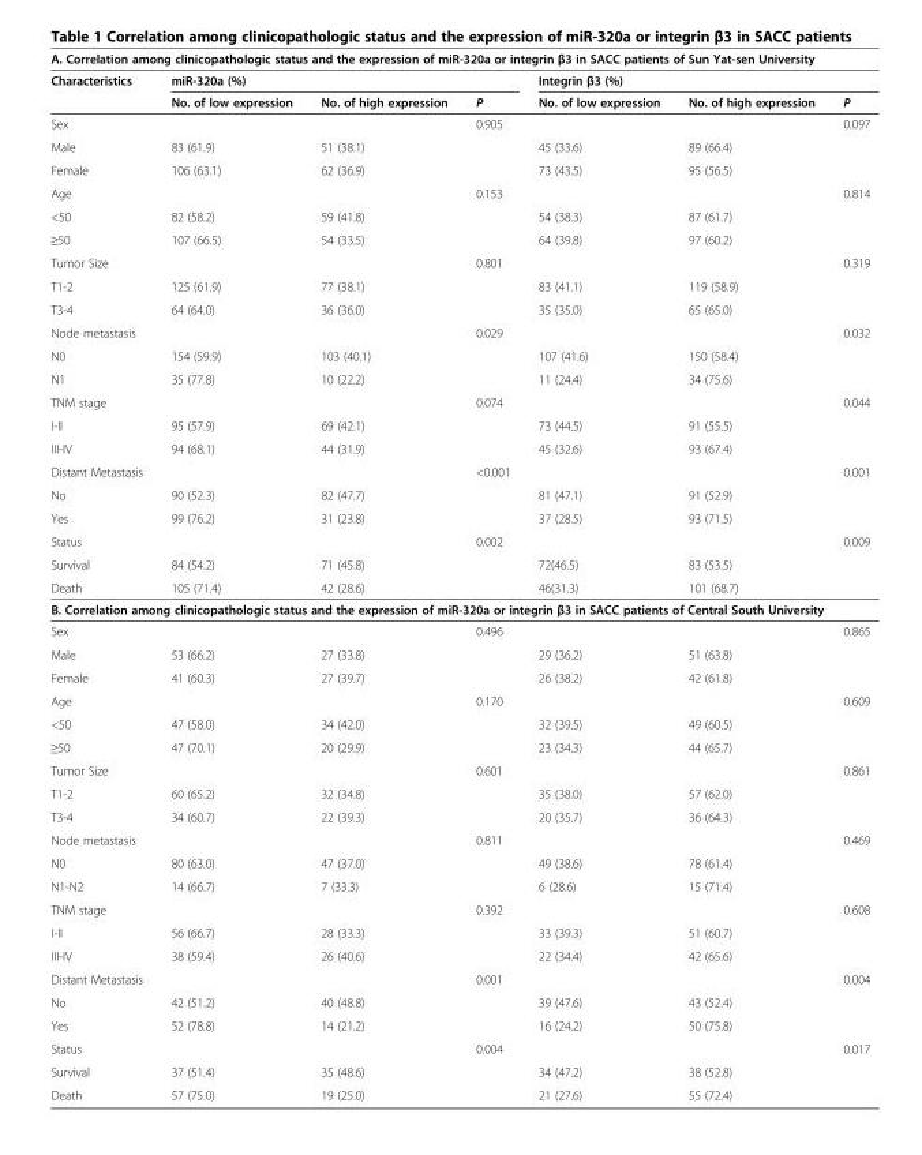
<table><thead><tr><td colspan="7">A. Correlation among clinicopathologic status and the expression of miR-320a or integrin β3 in SACC patients of Sun Yat-sen University</td></tr><tr><td rowspan="2">Characteristics</td><td colspan="3">miR-320a (%)</td><td colspan="3">Integrin β3 (%)</td></tr><tr><td>No. of low expression</td><td>No. of high expression</td><td>P</td><td>No. of low expression</td><td>No. of high expression</td><td>P</td></tr></thead><tbody><tr><td>Sex</td><td></td><td></td><td>0.905</td><td></td><td></td><td>0.097</td></tr><tr><td>Male</td><td>83 (61.9)</td><td>51 (38.1)</td><td></td><td>45 (33.6)</td><td>89 (66.4)</td><td></td></tr><tr><td>Female</td><td>106 (63.1)</td><td>62 (36.9)</td><td></td><td>73 (43.5)</td><td>95 (56.5)</td><td></td></tr><tr><td>Age</td><td></td><td></td><td>0.153</td><td></td><td></td><td>0.814</td></tr><tr><td>&lt;50</td><td>82 (58.2)</td><td>59 (41.8)</td><td></td><td>54 (38.3)</td><td>87 (61.7)</td><td></td></tr><tr><td>≥50</td><td>107 (66.5)</td><td>54 (33.5)</td><td></td><td>64 (39.8)</td><td>97 (60.2)</td><td></td></tr><tr><td>Tumor Size</td><td></td><td></td><td>0.801</td><td></td><td></td><td>0.319</td></tr><tr><td>T1-2</td><td>125 (61.9)</td><td>77 (38.1)</td><td></td><td>83 (41.1)</td><td>119 (58.9)</td><td></td></tr><tr><td>T3-4</td><td>64 (64.0)</td><td>36 (36.0)</td><td></td><td>35 (35.0)</td><td>65 (65.0)</td><td></td></tr><tr><td>Node metastasis</td><td></td><td></td><td>0.029</td><td></td><td></td><td>0.032</td></tr><tr><td>N0</td><td>154 (59.9)</td><td>103 (40.1)</td><td></td><td>107 (41.6)</td><td>150 (58.4)</td><td></td></tr><tr><td>N1</td><td>35 (77.8)</td><td>10 (22.2)</td><td></td><td>11 (24.4)</td><td>34 (75.6)</td><td></td></tr><tr><td>TNM stage</td><td></td><td></td><td>0.074</td><td></td><td></td><td>0.044</td></tr><tr><td>I-II</td><td>95 (57.9)</td><td>69 (42.1)</td><td></td><td>73 (44.5)</td><td>91 (55.5)</td><td></td></tr><tr><td>III-IV</td><td>94 (68.1)</td><td>44 (31.9)</td><td></td><td>45 (32.6)</td><td>93 (67.4)</td><td></td></tr><tr><td>Distant Metastasis</td><td></td><td></td><td>&lt;0.001</td><td></td><td></td><td>0.001</td></tr><tr><td>No</td><td>90 (52.3)</td><td>82 (47.7)</td><td></td><td>81 (47.1)</td><td>91 (52.9)</td><td></td></tr><tr><td>Yes</td><td>99 (76.2)</td><td>31 (23.8)</td><td></td><td>37 (28.5)</td><td>93 (71.5)</td><td></td></tr><tr><td>Status</td><td></td><td></td><td>0.002</td><td></td><td></td><td>0.009</td></tr><tr><td>Survival</td><td>84 (54.2)</td><td>71 (45.8)</td><td></td><td>72(46.5)</td><td>83 (53.5)</td><td></td></tr><tr><td>Death</td><td>105 (71.4)</td><td>42 (28.6)</td><td></td><td>46(31.3)</td><td>101 (68.7)</td><td></td></tr><tr><td colspan="7">B. Correlation among clinicopathologic status and the expression of miR-320a or integrin β3 in SACC patients of Central South University</td></tr><tr><td>Sex</td><td></td><td></td><td>0.496</td><td></td><td></td><td>0.865</td></tr><tr><td>Male</td><td>53 (66.2)</td><td>27 (33.8)</td><td></td><td>29 (36.2)</td><td>51 (63.8)</td><td></td></tr><tr><td>Female</td><td>41 (60.3)</td><td>27 (39.7)</td><td></td><td>26 (38.2)</td><td>42 (61.8)</td><td></td></tr><tr><td>Age</td><td></td><td></td><td>0.170</td><td></td><td></td><td>0.609</td></tr><tr><td>&lt;50</td><td>47 (58.0)</td><td>34 (42.0)</td><td></td><td>32 (39.5)</td><td>49 (60.5)</td><td></td></tr><tr><td>≥50</td><td>47 (70.1)</td><td>20 (29.9)</td><td></td><td>23 (34.3)</td><td>44 (65.7)</td><td></td></tr><tr><td>Tumor Size</td><td></td><td></td><td>0.601</td><td></td><td></td><td>0.861</td></tr><tr><td>T1-2</td><td>60 (65.2)</td><td>32 (34.8)</td><td></td><td>35 (38.0)</td><td>57 (62.0)</td><td></td></tr><tr><td>T3-4</td><td>34 (60.7)</td><td>22 (39.3)</td><td></td><td>20 (35.7)</td><td>36 (64.3)</td><td></td></tr><tr><td>Node metastasis</td><td></td><td></td><td>0.811</td><td></td><td></td><td>0.469</td></tr><tr><td>N0</td><td>80 (63.0)</td><td>47 (37.0)</td><td></td><td>49 (38.6)</td><td>78 (61.4)</td><td></td></tr><tr><td>N1-N2</td><td>14 (66.7)</td><td>7 (33.3)</td><td></td><td>6 (28.6)</td><td>15 (71.4)</td><td></td></tr><tr><td>TNM stage</td><td></td><td></td><td>0.392</td><td></td><td></td><td>0.608</td></tr><tr><td>I-II</td><td>56 (66.7)</td><td>28 (33.3)</td><td></td><td>33 (39.3)</td><td>51 (60.7)</td><td></td></tr><tr><td>III-IV</td><td>38 (59.4)</td><td>26 (40.6)</td><td></td><td>22 (34.4)</td><td>42 (65.6)</td><td></td></tr><tr><td>Distant Metastasis</td><td></td><td></td><td>0.001</td><td></td><td></td><td>0.004</td></tr><tr><td>No</td><td>42 (51.2)</td><td>40 (48.8)</td><td></td><td>39 (47.6)</td><td>43 (52.4)</td><td></td></tr><tr><td>Yes</td><td>52 (78.8)</td><td>14 (21.2)</td><td></td><td>16 (24.2)</td><td>50 (75.8)</td><td></td></tr><tr><td>Status</td><td></td><td></td><td>0.004</td><td></td><td></td><td>0.017</td></tr><tr><td>Survival</td><td>37 (51.4)</td><td>35 (48.6)</td><td></td><td>34 (47.2)</td><td>38 (52.8)</td><td></td></tr><tr><td>Death</td><td>57 (75.0)</td><td>19 (25.0)</td><td></td><td>21 (27.6)</td><td>55 (72.4)</td><td></td></tr></tbody></table>